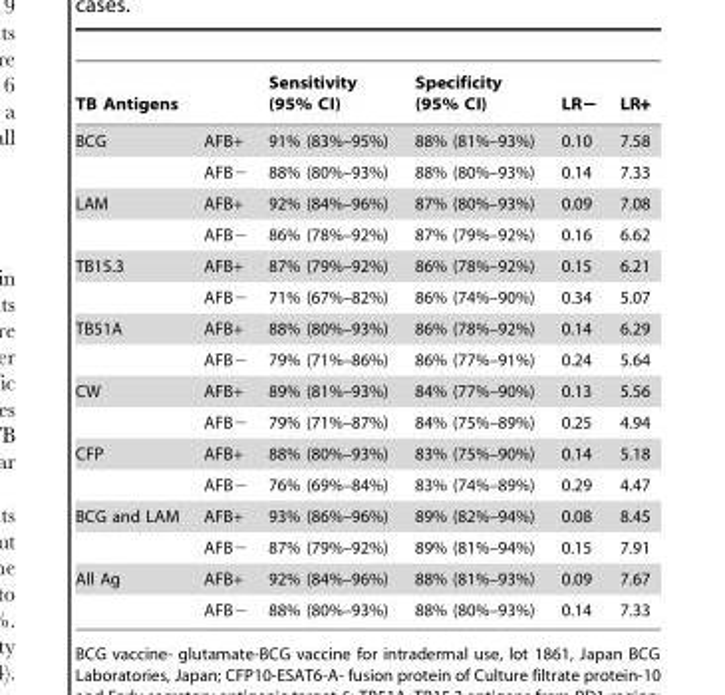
<table><thead><tr><td>TB Antigens</td><td></td><td>Sensitivity (95% CI)</td><td>Specificity (95% CI)</td><td>LR−</td><td>LR+</td></tr></thead><tbody><tr><td rowspan="2">BCG</td><td>AFB+</td><td>91% (83%–95%)</td><td>88% (81%–93%)</td><td>0.10</td><td>7.58</td></tr><tr><td>AFB−</td><td>88% (80%–93%)</td><td>88% (80%–93%)</td><td>0.14</td><td>7.33</td></tr><tr><td rowspan="2">LAM</td><td>AFB+</td><td>92% (84%–96%)</td><td>87% (80%–93%)</td><td>0.09</td><td>7.08</td></tr><tr><td>AFB−</td><td>86% (78%–92%)</td><td>87% (79%–92%)</td><td>0.16</td><td>6.62</td></tr><tr><td rowspan="2">TB15.3</td><td>AFB+</td><td>87% (79%–92%)</td><td>86% (78%–92%)</td><td>0.15</td><td>6.21</td></tr><tr><td>AFB−</td><td>71% (67%–82%)</td><td>86% (74%–90%)</td><td>0.34</td><td>5.07</td></tr><tr><td rowspan="2">TB51A</td><td>AFB+</td><td>88% (80%–93%)</td><td>86% (78%–92%)</td><td>0.14</td><td>6.29</td></tr><tr><td>AFB−</td><td>79% (71%–86%)</td><td>86% (77%–91%)</td><td>0.24</td><td>5.64</td></tr><tr><td rowspan="2">CW</td><td>AFB+</td><td>89% (81%–93%)</td><td>84% (77%–90%)</td><td>0.13</td><td>5.56</td></tr><tr><td>AFB−</td><td>79% (71%–87%)</td><td>84% (75%–89%)</td><td>0.25</td><td>4.94</td></tr><tr><td rowspan="2">CFP</td><td>AFB+</td><td>88% (80%–93%)</td><td>83% (75%–90%)</td><td>0.14</td><td>5.18</td></tr><tr><td>AFB−</td><td>76% (69%–84%)</td><td>83% (74%–89%)</td><td>0.29</td><td>4.47</td></tr><tr><td rowspan="2">BCG and LAM</td><td>AFB+</td><td>93% (86%–96%)</td><td>89% (82%–94%)</td><td>0.08</td><td>8.45</td></tr><tr><td>AFB−</td><td>87% (79%–92%)</td><td>89% (81%–94%)</td><td>0.15</td><td>7.91</td></tr><tr><td rowspan="2">All Ag</td><td>AFB+</td><td>92% (84%–96%)</td><td>88% (81%–93%)</td><td>0.09</td><td>7.67</td></tr><tr><td>AFB−</td><td>88% (80%–93%)</td><td>88% (80%–93%)</td><td>0.14</td><td>7.33</td></tr></tbody></table>